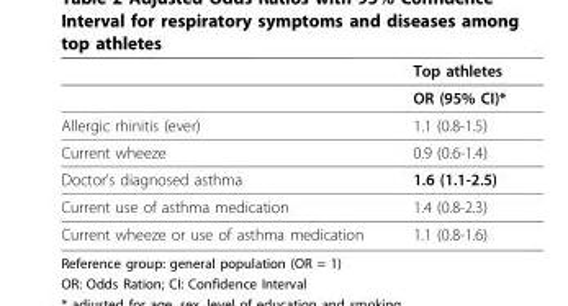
<table><thead><tr><td></td><td>Top athletes</td></tr></thead><tbody><tr><td></td><td>OR (95% CI)*</td></tr><tr><td>Allergic rhinitis (ever)</td><td>1.1 (0.8-1.5)</td></tr><tr><td>Current wheeze</td><td>0.9 (0.6-1.4)</td></tr><tr><td>Doctor’s diagnosed asthma</td><td>1.6 (1.1-2.5)</td></tr><tr><td>Current use of asthma medication</td><td>1.4 (0.8-2.3)</td></tr><tr><td>Current wheeze or use of asthma medication</td><td>1.1 (0.8-1.6)</td></tr></tbody></table>